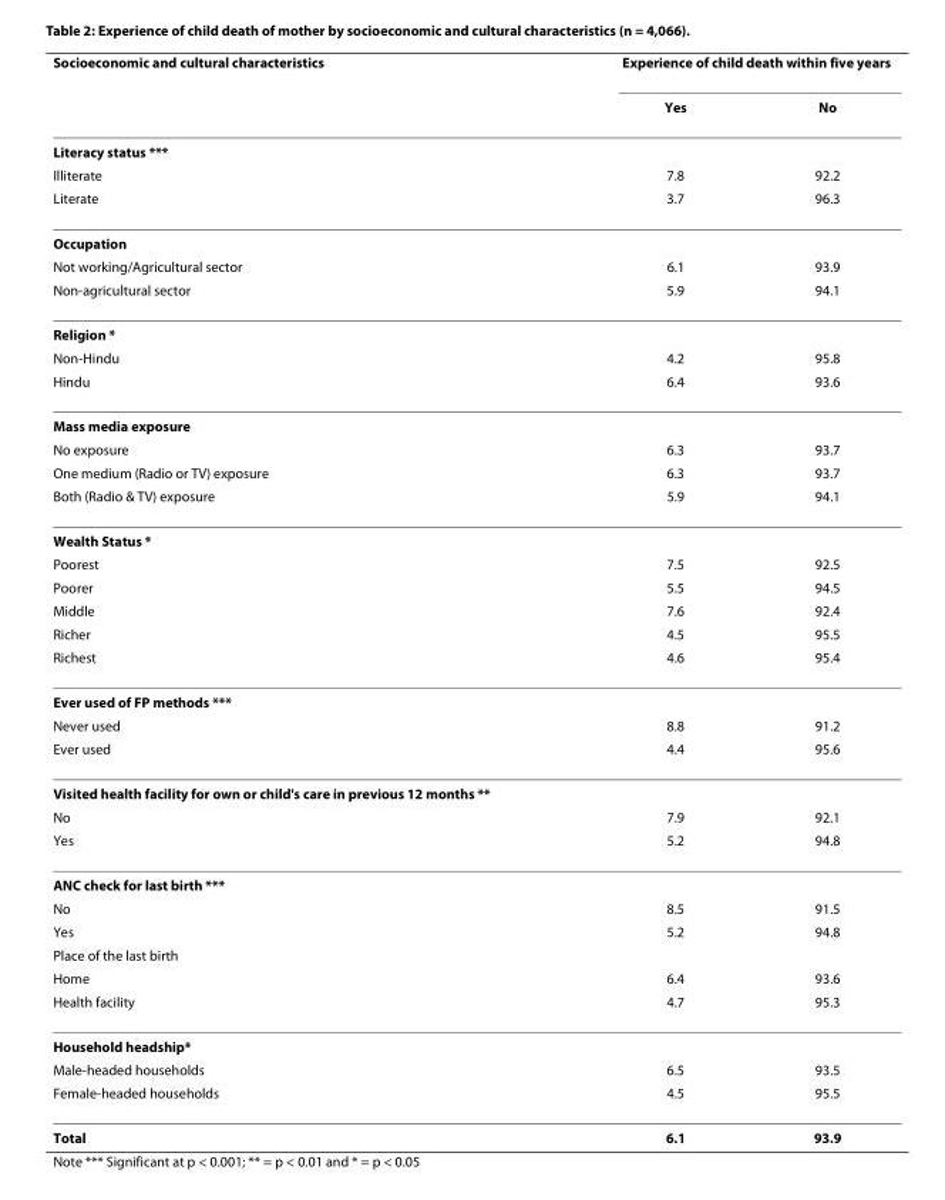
<table><thead><tr><td rowspan="2">Socioeconomic and cultural characteristics</td><td colspan="2">Experience of child death within five years</td></tr><tr><td>Yes</td><td>No</td></tr></thead><tbody><tr><td colspan="3">Literacy status ***</td></tr><tr><td>Illiterate</td><td>7.8</td><td>92.2</td></tr><tr><td>Literate</td><td>3.7</td><td>96.3</td></tr><tr><td colspan="3">Occupation</td></tr><tr><td>Not working/Agricultural sector</td><td>6.1</td><td>93.9</td></tr><tr><td>Non-agricultural sector</td><td>5.9</td><td>94.1</td></tr><tr><td colspan="3">Religion *</td></tr><tr><td>Non-Hindu</td><td>4.2</td><td>95.8</td></tr><tr><td>Hindu</td><td>6.4</td><td>93.6</td></tr><tr><td colspan="3">Mass media exposure</td></tr><tr><td>No exposure</td><td>6.3</td><td>93.7</td></tr><tr><td>One medium (Radio or TV) exposure</td><td>6.3</td><td>93.7</td></tr><tr><td>Both (Radio &amp; TV) exposure</td><td>5.9</td><td>94.1</td></tr><tr><td colspan="3">Wealth Status *</td></tr><tr><td>Poorest</td><td>7.5</td><td>92.5</td></tr><tr><td>Poorer</td><td>5.5</td><td>94.5</td></tr><tr><td>Middle</td><td>7.6</td><td>92.4</td></tr><tr><td>Richer</td><td>4.5</td><td>95.5</td></tr><tr><td>Richest</td><td>4.6</td><td>95.4</td></tr><tr><td colspan="3">Ever used of FP methods ***</td></tr><tr><td>Never used</td><td>8.8</td><td>91.2</td></tr><tr><td>Ever used</td><td>4.4</td><td>95.6</td></tr><tr><td colspan="3">Visited health facility for own or child&#x27;s care in previous 12 months **</td></tr><tr><td>No</td><td>7.9</td><td>92.1</td></tr><tr><td>Yes</td><td>5.2</td><td>94.8</td></tr><tr><td colspan="3">ANC check for last birth ***</td></tr><tr><td>No</td><td>8.5</td><td>91.5</td></tr><tr><td>Yes</td><td>5.2</td><td>94.8</td></tr><tr><td colspan="3">Place of the last birth</td></tr><tr><td>Home</td><td>6.4</td><td>93.6</td></tr><tr><td>Health facility</td><td>4.7</td><td>95.3</td></tr><tr><td colspan="3">Household headship*</td></tr><tr><td>Male-headed households</td><td>6.5</td><td>93.5</td></tr><tr><td>Female-headed households</td><td>4.5</td><td>95.5</td></tr><tr><td>Total</td><td>6.1</td><td>93.9</td></tr></tbody></table>